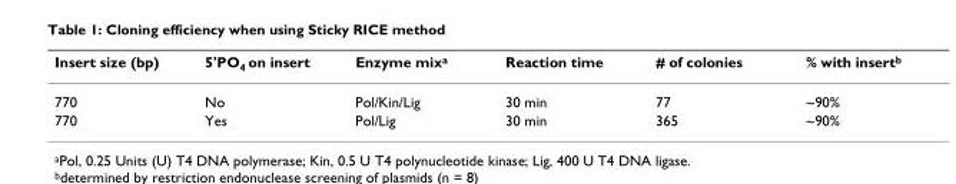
<table><thead><tr><td>Insert size (bp)</td><td>5&#x27;PO<sub>4</sub> on insert</td><td>Enzyme mix<sup>a</sup></td><td>Reaction time</td><td># of colonies</td><td>% with insert<sup>b</sup></td></tr></thead><tbody><tr><td>770</td><td>No</td><td>Pol/Kin/Lig</td><td>30 min</td><td>77</td><td>~90%</td></tr><tr><td>770</td><td>Yes</td><td>Pol/Lig</td><td>30 min</td><td>365</td><td>~90%</td></tr></tbody></table>